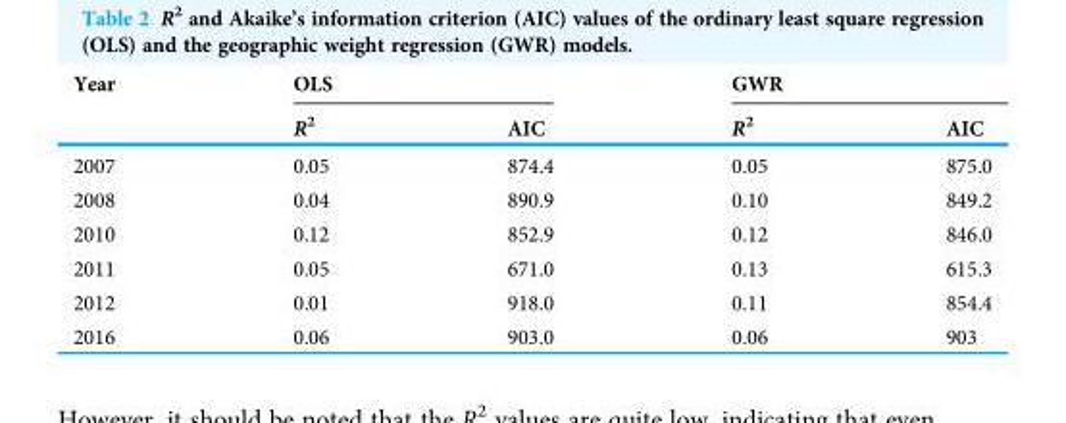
<table><thead><tr><td rowspan="2">Year</td><td colspan="2">OLS</td><td colspan="2">GWR</td></tr><tr><td>R<sup>2</sup></td><td>AIC</td><td>R<sup>2</sup></td><td>AIC</td></tr></thead><tbody><tr><td>2007</td><td>0.05</td><td>874.4</td><td>0.05</td><td>875.0</td></tr><tr><td>2008</td><td>0.04</td><td>890.9</td><td>0.10</td><td>849.2</td></tr><tr><td>2010</td><td>0.12</td><td>852.9</td><td>0.12</td><td>846.0</td></tr><tr><td>2011</td><td>0.05</td><td>671.0</td><td>0.13</td><td>615.3</td></tr><tr><td>2012</td><td>0.01</td><td>918.0</td><td>0.11</td><td>854.4</td></tr><tr><td>2016</td><td>0.06</td><td>903.0</td><td>0.06</td><td>903</td></tr></tbody></table>